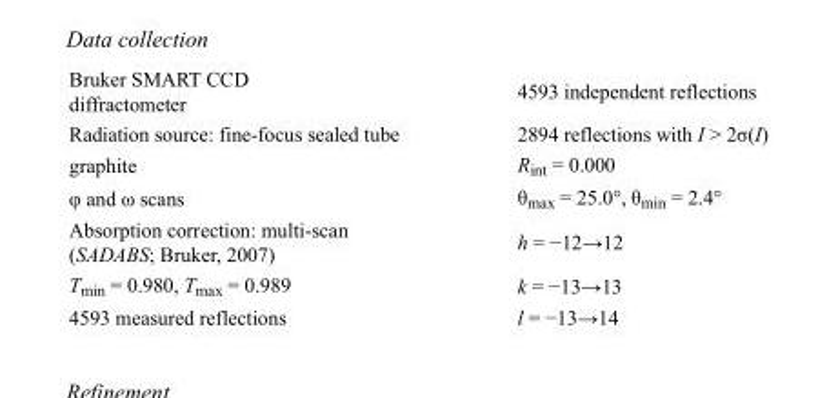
<table><tbody><tr><td>Bruker SMART CCD diffractometer</td><td>4593 independent reflections</td></tr><tr><td>Radiation source: fine-focus sealed tube</td><td>2894 reflections with I &gt; 2σ(I)</td></tr><tr><td>graphite</td><td>R<sub>int</sub> = 0.000</td></tr><tr><td>φ and ω scans</td><td>θ<sub>max</sub> = 25.0°, θ<sub>min</sub> = 2.4°</td></tr><tr><td>Absorption correction: multi-scan (SADABS; Bruker, 2007)</td><td>h = −12→12</td></tr><tr><td>T<sub>min</sub> = 0.980, T<sub>max</sub> = 0.989</td><td>k = −13→13</td></tr><tr><td>4593 measured reflections</td><td>l = −13→14</td></tr></tbody></table>